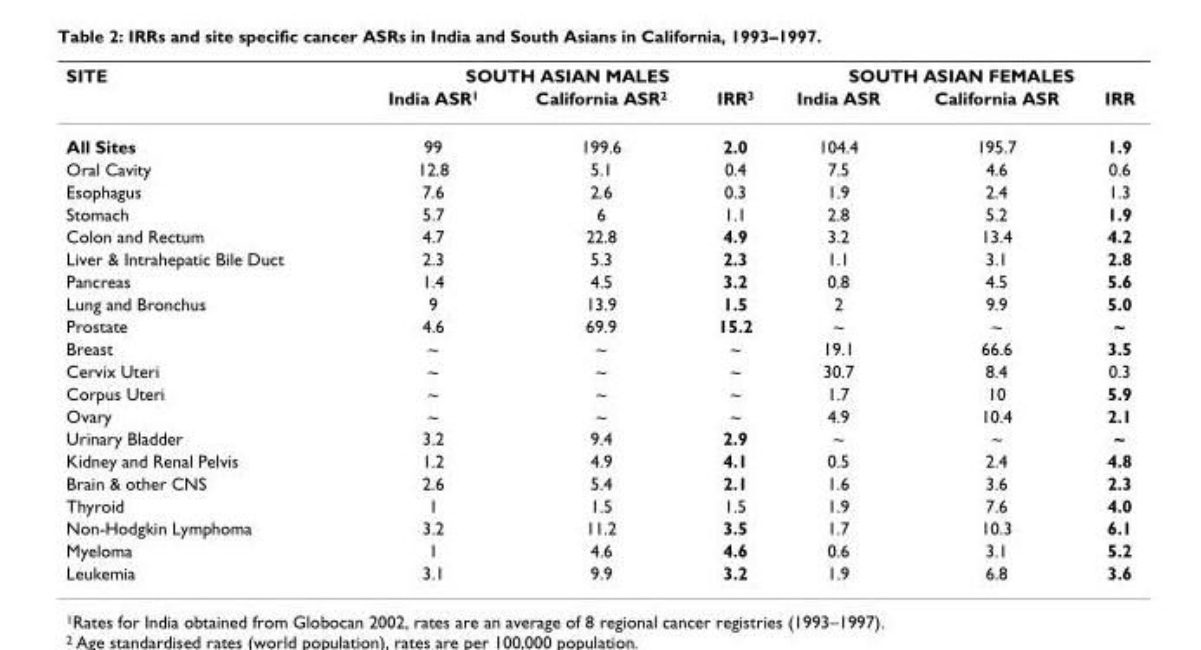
<table><thead><tr><td rowspan="2">SITE</td><td colspan="3">SOUTH ASIAN MALES</td><td colspan="3">SOUTH ASIAN FEMALES</td></tr><tr><td>India ASR<sup>1</sup></td><td>California ASR<sup>2</sup></td><td>IRR<sup>3</sup></td><td>India ASR</td><td>California ASR</td><td>IRR</td></tr></thead><tbody><tr><td>All Sites</td><td>99</td><td>199.6</td><td>2.0</td><td>104.4</td><td>195.7</td><td>1.9</td></tr><tr><td>Oral Cavity</td><td>12.8</td><td>5.1</td><td>0.4</td><td>7.5</td><td>4.6</td><td>0.6</td></tr><tr><td>Esophagus</td><td>7.6</td><td>2.6</td><td>0.3</td><td>1.9</td><td>2.4</td><td>1.3</td></tr><tr><td>Stomach</td><td>5.7</td><td>6</td><td>1.1</td><td>2.8</td><td>5.2</td><td>1.9</td></tr><tr><td>Colon and Rectum</td><td>4.7</td><td>22.8</td><td>4.9</td><td>3.2</td><td>13.4</td><td>4.2</td></tr><tr><td>Liver &amp; Intrahepatic Bile Duct</td><td>2.3</td><td>5.3</td><td>2.3</td><td>1.1</td><td>3.1</td><td>2.8</td></tr><tr><td>Pancreas</td><td>1.4</td><td>4.5</td><td>3.2</td><td>0.8</td><td>4.5</td><td>5.6</td></tr><tr><td>Lung and Bronchus</td><td>9</td><td>13.9</td><td>1.5</td><td>2</td><td>9.9</td><td>5.0</td></tr><tr><td>Prostate</td><td>4.6</td><td>69.9</td><td>15.2</td><td>~</td><td>~</td><td>~</td></tr><tr><td>Breast</td><td>~</td><td>~</td><td>~</td><td>19.1</td><td>66.6</td><td>3.5</td></tr><tr><td>Cervix Uteri</td><td>~</td><td>~</td><td>~</td><td>30.7</td><td>8.4</td><td>0.3</td></tr><tr><td>Corpus Uteri</td><td>~</td><td>~</td><td>~</td><td>1.7</td><td>10</td><td>5.9</td></tr><tr><td>Ovary</td><td>~</td><td>~</td><td>~</td><td>4.9</td><td>10.4</td><td>2.1</td></tr><tr><td>Urinary Bladder</td><td>3.2</td><td>9.4</td><td>2.9</td><td>~</td><td>~</td><td>~</td></tr><tr><td>Kidney and Renal Pelvis</td><td>1.2</td><td>4.9</td><td>4.1</td><td>0.5</td><td>2.4</td><td>4.8</td></tr><tr><td>Brain &amp; other CNS</td><td>2.6</td><td>5.4</td><td>2.1</td><td>1.6</td><td>3.6</td><td>2.3</td></tr><tr><td>Thyroid</td><td>1</td><td>1.5</td><td>1.5</td><td>1.9</td><td>7.6</td><td>4.0</td></tr><tr><td>Non-Hodgkin Lymphoma</td><td>3.2</td><td>11.2</td><td>3.5</td><td>1.7</td><td>10.3</td><td>6.1</td></tr><tr><td>Myeloma</td><td>1</td><td>4.6</td><td>4.6</td><td>0.6</td><td>3.1</td><td>5.2</td></tr><tr><td>Leukemia</td><td>3.1</td><td>9.9</td><td>3.2</td><td>1.9</td><td>6.8</td><td>3.6</td></tr></tbody></table>